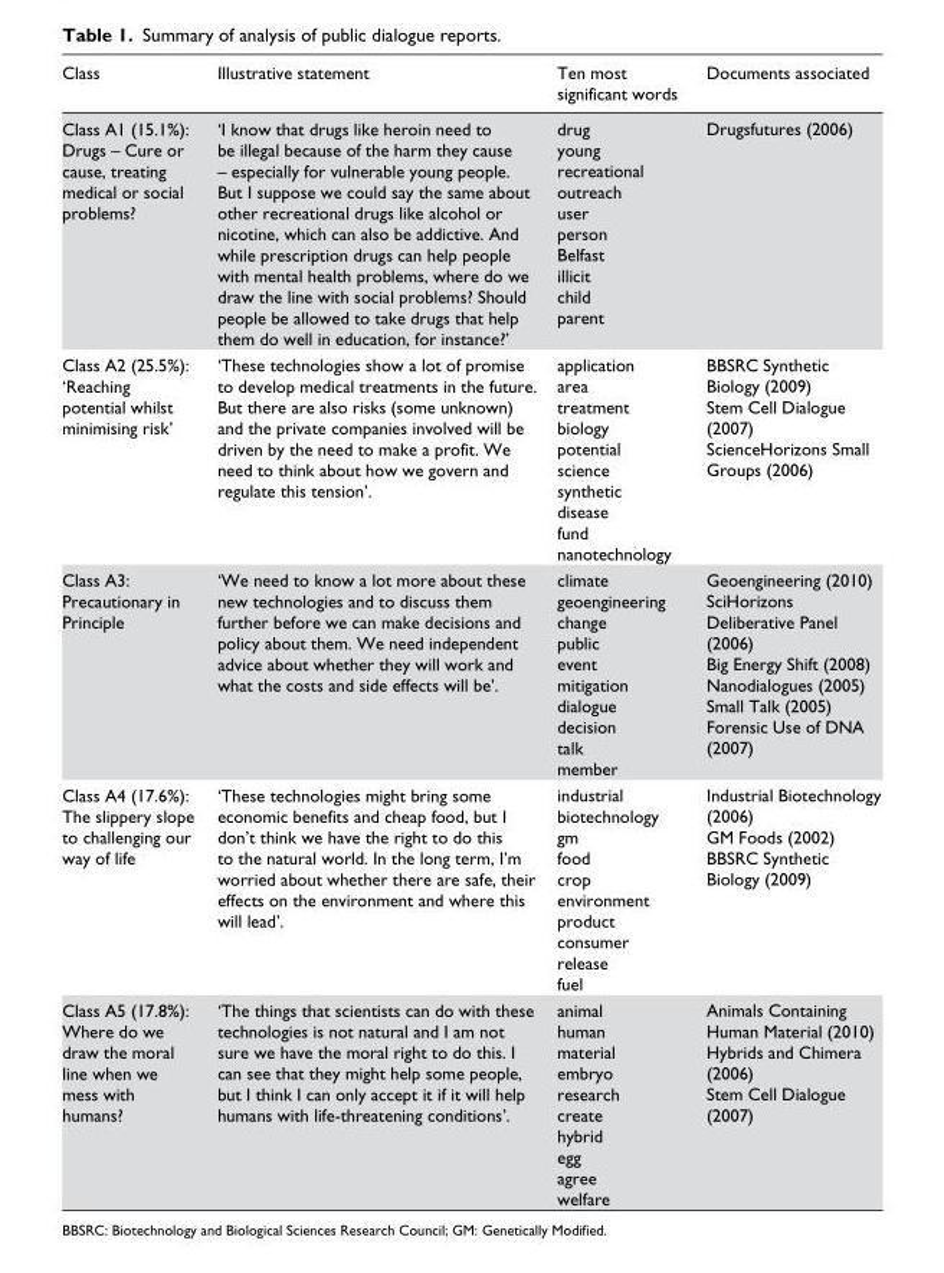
<table><thead><tr><td>Class</td><td>Illustrative statement</td><td>Ten most significant words</td><td>Documents associated</td></tr></thead><tbody><tr><td>Class A1 (15.1%): Drugs – Cure or cause, treating medical or social problems?</td><td>‘I know that drugs like heroin need to be illegal because of the harm they cause – especially for vulnerable young people. But I suppose we could say the same about other recreational drugs like alcohol or nicotine, which can also be addictive. And while prescription drugs can help people with mental health problems, where do we draw the line with social problems? Should people be allowed to take drugs that help them do well in education, for instance?’</td><td>drug young recreational outreach user person Belfast illicit child parent</td><td>Drugsfutures (2006)</td></tr><tr><td>Class A2 (25.5%): ‘Reaching potential whilst minimising risk’</td><td>‘These technologies show a lot of promise to develop medical treatments in the future. But there are also risks (some unknown) and the private companies involved will be driven by the need to make a profit. We need to think about how we govern and regulate this tension’.</td><td>application area treatment biology potential science synthetic disease fund nanotechnology</td><td>BBSRC Synthetic Biology (2009) Stem Cell Dialogue (2007) ScienceHorizons Small Groups (2006)</td></tr><tr><td>Class A3: Precautionary in Principle</td><td>‘We need to know a lot more about these new technologies and to discuss them further before we can make decisions and policy about them. We need independent advice about whether they will work and what the costs and side effects will be’.</td><td>climate geoengineering change public event mitigation dialogue decision talk member</td><td>Geoengineering (2010) SciHorizons Deliberative Panel (2006) Big Energy Shift (2008) Nanodialogues (2005) Small Talk (2005) Forensic Use of DNA (2007)</td></tr><tr><td>Class A4 (17.6%): The slippery slope to challenging our way of life</td><td>‘These technologies might bring some economic benefits and cheap food, but I don’t think we have the right to do this to the natural world. In the long term, I’m worried about whether there are safe, their effects on the environment and where this will lead’.</td><td>industrial biotechnology gm food crop environment product consumer release fuel</td><td>Industrial Biotechnology (2006) GM Foods (2002) BBSRC Synthetic Biology (2009)</td></tr><tr><td>Class A5 (17.8%): Where do we draw the moral line when we mess with humans?</td><td>‘The things that scientists can do with these technologies is not natural and I am not sure we have the moral right to do this. I can see that they might help some people, but I think I can only accept it if it will help humans with life-threatening conditions’.</td><td>animal human material embryo research create hybrid egg agree welfare</td><td>Animals Containing Human Material (2010) Hybrids and Chimera (2006) Stem Cell Dialogue (2007)</td></tr></tbody></table>